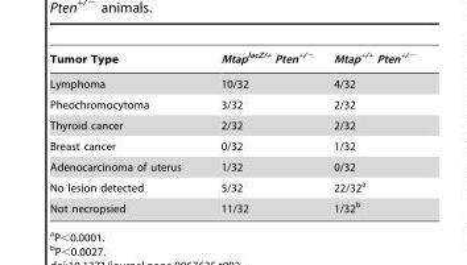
<table><thead><tr><td>Tumor Type</td><td>Mtap<sup>lacZ/+</sup> Pten<sup>+/−</sup></td><td>Mtap<sup>+/+</sup> Pten<sup>+/−</sup></td></tr></thead><tbody><tr><td>Lymphoma</td><td>10/32</td><td>4/32</td></tr><tr><td>Pheochromocytoma</td><td>3/32</td><td>2/32</td></tr><tr><td>Thyroid cancer</td><td>2/32</td><td>2/32</td></tr><tr><td>Breast cancer</td><td>0/32</td><td>1/32</td></tr><tr><td>Adenocarcinoma of uterus</td><td>1/32</td><td>0/32</td></tr><tr><td>No lesion detected</td><td>5/32</td><td>22/32<sup>a</sup></td></tr><tr><td>Not necropsied</td><td>11/32</td><td>1/32<sup>b</sup></td></tr></tbody></table>